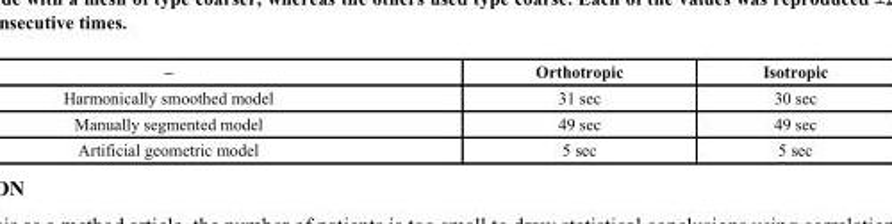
<table><thead><tr><td>–</td><td>Orthotropic</td><td>Isotropic</td></tr></thead><tbody><tr><td>Harmonically smoothed model</td><td>31 sec</td><td>30 sec</td></tr><tr><td>Manually segmented model</td><td>49 sec</td><td>49 sec</td></tr><tr><td>Artificial geometric model</td><td>5 sec</td><td>5 sec</td></tr></tbody></table>